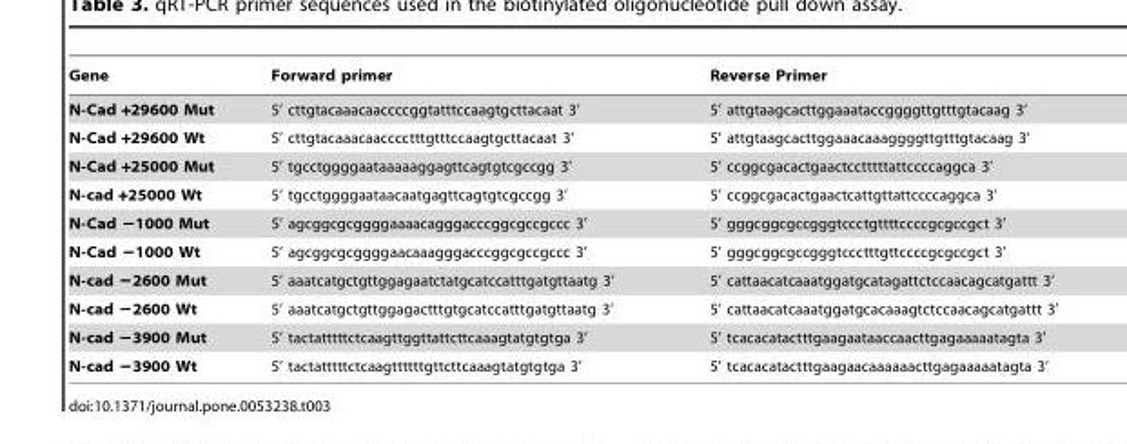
<table><thead><tr><td>Gene</td><td>Forward primer</td><td>Reverse Primer</td></tr></thead><tbody><tr><td>N-Cad +29600 Mut</td><td>5’ cttgtacaaacaaccccggtatttccaagtgcttacaat 3’</td><td>5’ attgtaagcacttggaaataccggggttgtttgtacaag 3’</td></tr><tr><td>N-Cad +29600 Wt</td><td>5’ cttgtacaaacaacccctttgtttccaagtgcttacaat 3’</td><td>5’ attgtaagcacttggaaacaaaggggttgtttgtacaag 3’</td></tr><tr><td>N-Cad +25000 Mut</td><td>5’ tgcctggggaataaaaaggagttcagtgtcgccgg 3’</td><td>5’ ccggcgacactgaactcctttttattccccaggca 3’</td></tr><tr><td>N-cad +25000 Wt</td><td>5’ tgcctggggaataacaatgagttcagtgtcgccgg 3’</td><td>5’ ccggcgacactgaactcattgttattccccaggca 3’</td></tr><tr><td>N-Cad −1000 Mut</td><td>5’ agcggcgcggggaaaacagggacccggcgccgccc 3’</td><td>5’ gggcggcgccgggtccctgttttccccgcgccgct 3’</td></tr><tr><td>N-Cad −1000 Wt</td><td>5’ agcggcgcggggaacaaagggacccggcgccgccc 3’</td><td>5’ gggcggcgccgggtccctttgttccccgcgccgct 3’</td></tr><tr><td>N-cad −2600 Mut</td><td>5’ aaatcatgctgttggagaatctatgcatccatttgatgttaatg 3’</td><td>5’ cattaacatcaaatggatgcatagattctccaacagcatgattt 3’</td></tr><tr><td>N-cad −2600 Wt</td><td>5’ aaatcatgctgttggagactttgtgcatccatttgatgttaatg 3’</td><td>5’ cattaacatcaaatggatgcacaaagtctccaacagcatgattt 3’</td></tr><tr><td>N-cad −3900 Mut</td><td>5’ tactatttttctcaagttggttattcttcaaagtatgtgtga 3’</td><td>5’ tcacacatactttgaagaataaccaacttgagaaaaatagta 3’</td></tr><tr><td>N-cad −3900 Wt</td><td>5’ tactatttttctcaagttttttgttcttcaaagtatgtgtga 3’</td><td>5’ tcacacatactttgaagaacaaaaaacttgagaaaaatagta 3’</td></tr></tbody></table>